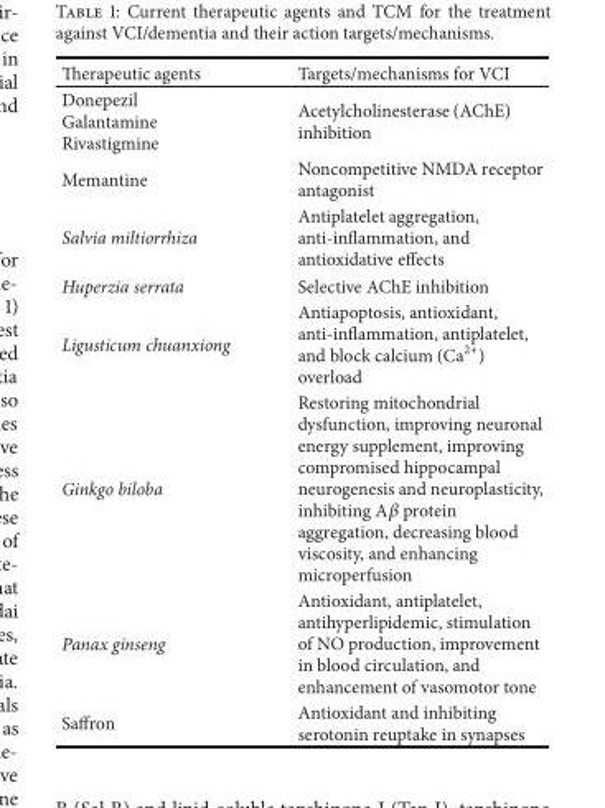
<table><thead><tr><td>Therapeutic agents</td><td>Targets/mechanisms for VCI</td></tr></thead><tbody><tr><td>Donepezil Galantamine Rivastigmine</td><td>Acetylcholinesterase (AChE) inhibition</td></tr><tr><td>Memantine</td><td>Noncompetitive NMDA receptor antagonist</td></tr><tr><td>Salvia miltiorrhiza</td><td>Antiplatelet aggregation, anti-inflammation, and antioxidative effects</td></tr><tr><td>Huperzia serrata</td><td>Selective AChE inhibition</td></tr><tr><td>Ligusticum chuanxiong</td><td>Antiapoptosis, antioxidant, anti-inflammation, antiplatelet, and block calcium (Ca<sup>2+</sup>) overload</td></tr><tr><td>Ginkgo biloba</td><td>Restoring mitochondrial dysfunction, improving neuronal energy supplement, improving compromised hippocampal neurogenesis and neuroplasticity, inhibiting A𝛽 protein aggregation, decreasing blood viscosity, and enhancing microperfusion</td></tr><tr><td>Panax ginseng</td><td>Antioxidant, antiplatelet, antihyperlipidemic, stimulation of NO production, improvement in blood circulation, and enhancement of vasomotor tone</td></tr><tr><td>Saffron</td><td>Antioxidant and inhibiting serotonin reuptake in synapses</td></tr></tbody></table>